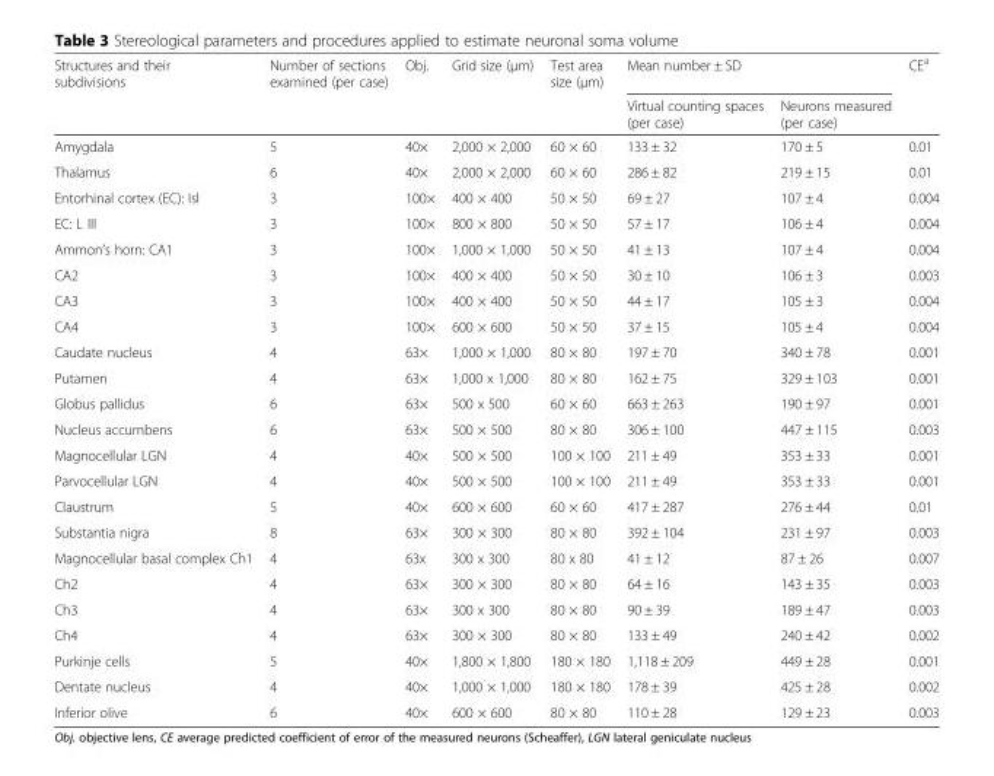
<table><thead><tr><td rowspan="2">Structures and their subdivisions</td><td rowspan="2">Number of sections examined (per case)</td><td rowspan="2">Obj.</td><td rowspan="2">Grid size (μm)</td><td rowspan="2">Test area size (μm)</td><td colspan="2">Mean number ± SD</td><td rowspan="2">CE<sup>a</sup></td></tr><tr><td>Virtual counting spaces (per case)</td><td>Neurons measured (per case)</td></tr></thead><tbody><tr><td>Amygdala</td><td>5</td><td>40×</td><td>2,000 × 2,000</td><td>60 × 60</td><td>133 ± 32</td><td>170 ± 5</td><td>0.01</td></tr><tr><td>Thalamus</td><td>6</td><td>40×</td><td>2,000 × 2,000</td><td>60 × 60</td><td>286 ± 82</td><td>219 ± 15</td><td>0.01</td></tr><tr><td>Entorhinal cortex (EC): Isl</td><td>3</td><td>100×</td><td>400 × 400</td><td>50 × 50</td><td>69 ± 27</td><td>107 ± 4</td><td>0.004</td></tr><tr><td>EC: L III</td><td>3</td><td>100×</td><td>800 × 800</td><td>50 × 50</td><td>57 ± 17</td><td>106 ± 4</td><td>0.004</td></tr><tr><td>Ammon’s horn: CA1</td><td>3</td><td>100×</td><td>1,000 × 1,000</td><td>50 × 50</td><td>41 ± 13</td><td>107 ± 4</td><td>0.004</td></tr><tr><td>CA2</td><td>3</td><td>100×</td><td>400 × 400</td><td>50 × 50</td><td>30 ± 10</td><td>106 ± 3</td><td>0.003</td></tr><tr><td>CA3</td><td>3</td><td>100×</td><td>400 × 400</td><td>50 × 50</td><td>44 ± 17</td><td>105 ± 3</td><td>0.004</td></tr><tr><td>CA4</td><td>3</td><td>100×</td><td>600 × 600</td><td>50 × 50</td><td>37 ± 15</td><td>105 ± 4</td><td>0.004</td></tr><tr><td>Caudate nucleus</td><td>4</td><td>63×</td><td>1,000 × 1,000</td><td>80 × 80</td><td>197 ± 70</td><td>340 ± 78</td><td>0.001</td></tr><tr><td>Putamen</td><td>4</td><td>63×</td><td>1,000 x 1,000</td><td>80 × 80</td><td>162 ± 75</td><td>329 ± 103</td><td>0.001</td></tr><tr><td>Globus pallidus</td><td>6</td><td>63×</td><td>500 x 500</td><td>60 × 60</td><td>663 ± 263</td><td>190 ± 97</td><td>0.001</td></tr><tr><td>Nucleus accumbens</td><td>6</td><td>63×</td><td>500 × 500</td><td>80 × 80</td><td>306 ± 100</td><td>447 ± 115</td><td>0.003</td></tr><tr><td>Magnocellular LGN</td><td>4</td><td>40×</td><td>500 × 500</td><td>100 × 100</td><td>211 ± 49</td><td>353 ± 33</td><td>0.001</td></tr><tr><td>Parvocellular LGN</td><td>4</td><td>40×</td><td>500 × 500</td><td>100 × 100</td><td>211 ± 49</td><td>353 ± 33</td><td>0.001</td></tr><tr><td>Claustrum</td><td>5</td><td>40×</td><td>600 × 600</td><td>60 × 60</td><td>417 ± 287</td><td>276 ± 44</td><td>0.01</td></tr><tr><td>Substantia nigra</td><td>8</td><td>63×</td><td>300 × 300</td><td>80 × 80</td><td>392 ± 104</td><td>231 ± 97</td><td>0.003</td></tr><tr><td>Magnocellular basal complex Ch1</td><td>4</td><td>63x</td><td>300 x 300</td><td>80 x 80</td><td>41 ± 12</td><td>87 ± 26</td><td>0.007</td></tr><tr><td>Ch2</td><td>4</td><td>63×</td><td>300 × 300</td><td>80 × 80</td><td>64 ± 16</td><td>143 ± 35</td><td>0.003</td></tr><tr><td>Ch3</td><td>4</td><td>63×</td><td>300 x 300</td><td>80 × 80</td><td>90 ± 39</td><td>189 ± 47</td><td>0.003</td></tr><tr><td>Ch4</td><td>4</td><td>63×</td><td>300 × 300</td><td>80 × 80</td><td>133 ± 49</td><td>240 ± 42</td><td>0.002</td></tr><tr><td>Purkinje cells</td><td>5</td><td>40×</td><td>1,800 × 1,800</td><td>180 × 180</td><td>1,118 ± 209</td><td>449 ± 28</td><td>0.001</td></tr><tr><td>Dentate nucleus</td><td>4</td><td>40×</td><td>1,000 × 1,000</td><td>180 × 180</td><td>178 ± 39</td><td>425 ± 28</td><td>0.002</td></tr><tr><td>Inferior olive</td><td>6</td><td>40×</td><td>600 × 600</td><td>80 × 80</td><td>110 ± 28</td><td>129 ± 23</td><td>0.003</td></tr></tbody></table>